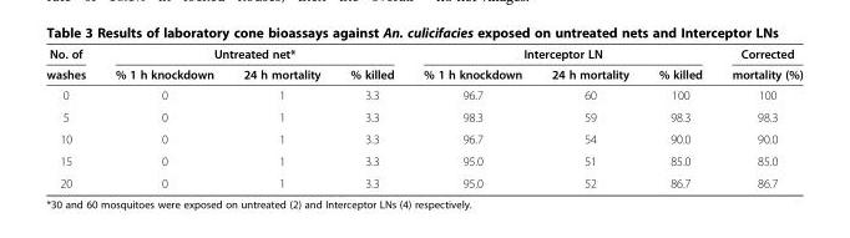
<table><thead><tr><td rowspan="2">No. of washes</td><td colspan="3">Untreated net*</td><td colspan="3">Interceptor LN</td><td rowspan="2">Corrected mortality (%)</td></tr><tr><td>% 1 h knockdown</td><td>24 h mortality</td><td>% killed</td><td>% 1 h knockdown</td><td>24 h mortality</td><td>% killed</td></tr></thead><tbody><tr><td>0</td><td>0</td><td>1</td><td>3.3</td><td>96.7</td><td>60</td><td>100</td><td>100</td></tr><tr><td>5</td><td>0</td><td>1</td><td>3.3</td><td>98.3</td><td>59</td><td>98.3</td><td>98.3</td></tr><tr><td>10</td><td>0</td><td>1</td><td>3.3</td><td>96.7</td><td>54</td><td>90.0</td><td>90.0</td></tr><tr><td>15</td><td>0</td><td>1</td><td>3.3</td><td>95.0</td><td>51</td><td>85.0</td><td>85.0</td></tr><tr><td>20</td><td>0</td><td>1</td><td>3.3</td><td>95.0</td><td>52</td><td>86.7</td><td>86.7</td></tr></tbody></table>